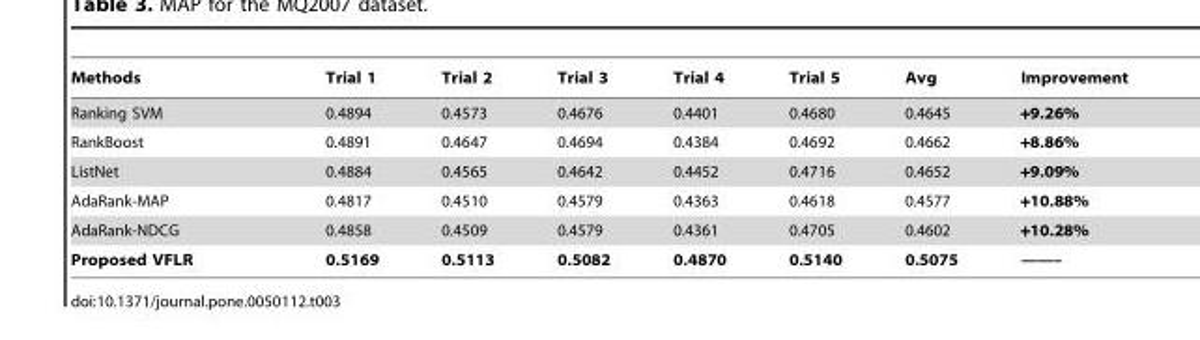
<table><thead><tr><td>Methods</td><td>Trial 1</td><td>Trial 2</td><td>Trial 3</td><td>Trial 4</td><td>Trial 5</td><td>Avg</td><td>Improvement</td></tr></thead><tbody><tr><td>Ranking SVM</td><td>0.4894</td><td>0.4573</td><td>0.4676</td><td>0.4401</td><td>0.4680</td><td>0.4645</td><td>+9.26%</td></tr><tr><td>RankBoost</td><td>0.4891</td><td>0.4647</td><td>0.4694</td><td>0.4384</td><td>0.4692</td><td>0.4662</td><td>+8.86%</td></tr><tr><td>ListNet</td><td>0.4884</td><td>0.4565</td><td>0.4642</td><td>0.4452</td><td>0.4716</td><td>0.4652</td><td>+9.09%</td></tr><tr><td>AdaRank-MAP</td><td>0.4817</td><td>0.4510</td><td>0.4579</td><td>0.4363</td><td>0.4618</td><td>0.4577</td><td>+10.88%</td></tr><tr><td>AdaRank-NDCG</td><td>0.4858</td><td>0.4509</td><td>0.4579</td><td>0.4361</td><td>0.4705</td><td>0.4602</td><td>+10.28%</td></tr><tr><td>Proposed VFLR</td><td>0.5169</td><td>0.5113</td><td>0.5082</td><td>0.4870</td><td>0.5140</td><td>0.5075</td><td>——–</td></tr></tbody></table>